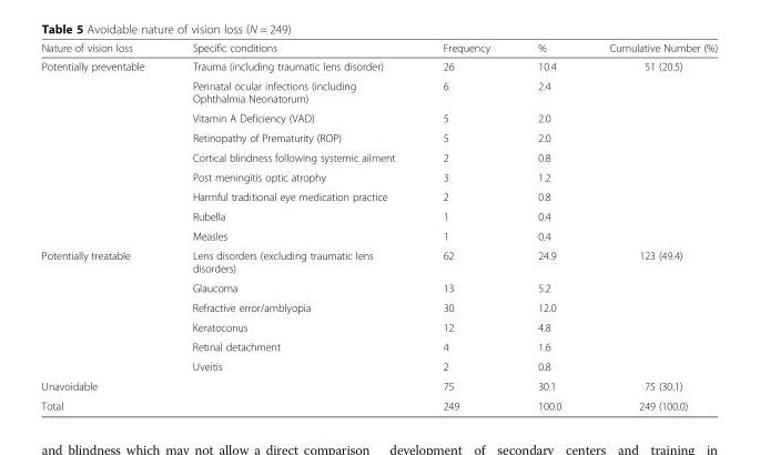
<table><thead><tr><td>Nature of vision loss</td><td>Specific conditions</td><td>Frequency</td><td>%</td><td>Cumulative Number (%)</td></tr></thead><tbody><tr><td rowspan="9">Potentially preventable</td><td>Trauma (including traumatic lens disorder)</td><td>26</td><td>10.4</td><td rowspan="9">51 (20.5)</td></tr><tr><td>Perinatal ocular infections (including Ophthalmia Neonatorum)</td><td>6</td><td>2.4</td></tr><tr><td>Vitamin A Deficiency (VAD)</td><td>5</td><td>2.0</td></tr><tr><td>Retinopathy of Prematurity (ROP)</td><td>5</td><td>2.0</td></tr><tr><td>Cortical blindness following systemic ailment</td><td>2</td><td>0.8</td></tr><tr><td>Post meningitis optic atrophy</td><td>3</td><td>1.2</td></tr><tr><td>Harmful traditional eye medication practice</td><td>2</td><td>0.8</td></tr><tr><td>Rubella</td><td>1</td><td>0.4</td></tr><tr><td>Measles</td><td>1</td><td>0.4</td></tr><tr><td rowspan="6">Potentially treatable</td><td>Lens disorders (excluding traumatic lens disorders)</td><td>62</td><td>24.9</td><td rowspan="6">123 (49.4)</td></tr><tr><td>Glaucoma</td><td>13</td><td>5.2</td></tr><tr><td>Refractive error/amblyopia</td><td>30</td><td>12.0</td></tr><tr><td>Keratoconus</td><td>12</td><td>4.8</td></tr><tr><td>Retinal detachment</td><td>4</td><td>1.6</td></tr><tr><td>Uveitis</td><td>2</td><td>0.8</td></tr><tr><td colspan="2">Unavoidable</td><td>75</td><td>30.1</td><td>75 (30.1)</td></tr><tr><td colspan="2">Total</td><td>249</td><td>100.0</td><td>249 (100.0)</td></tr></tbody></table>